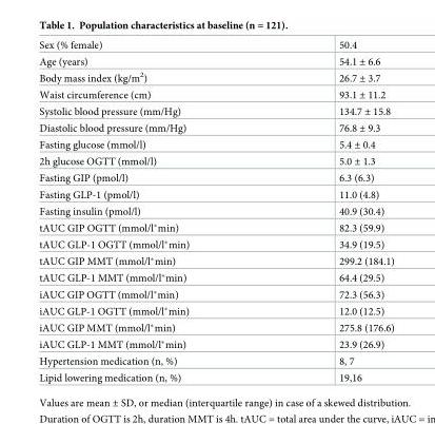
<table><tbody><tr><td>Sex (% female)</td><td>50.4</td></tr><tr><td>Age (years)</td><td>54.1 ± 6.6</td></tr><tr><td>Body mass index (kg/m<sup>2</sup>)</td><td>26.7 ± 3.7</td></tr><tr><td>Waist circumference (cm)</td><td>93.1 ± 11.2</td></tr><tr><td>Systolic blood pressure (mm/Hg)</td><td>134.7 ± 15.8</td></tr><tr><td>Diastolic blood pressure (mm/Hg)</td><td>76.8 ± 9.3</td></tr><tr><td>Fasting glucose (mmol/l)</td><td>5.4 ± 0.4</td></tr><tr><td>2h glucose OGTT (mmol/l)</td><td>5.0 ± 1.3</td></tr><tr><td>Fasting GIP (pmol/l)</td><td>6.3 (6.3)</td></tr><tr><td>Fasting GLP-1 (pmol/l)</td><td>11.0 (4.8)</td></tr><tr><td>Fasting insulin (pmol/l)</td><td>40.9 (30.4)</td></tr><tr><td>tAUC GIP OGTT (mmol/l*min)</td><td>82.3 (59.9)</td></tr><tr><td>tAUC GLP-1 OGTT (mmol/l*min)</td><td>34.9 (19.5)</td></tr><tr><td>tAUC GIP MMT (mmol/l*min)</td><td>299.2 (184.1)</td></tr><tr><td>tAUC GLP-1 MMT (mmol/l*min)</td><td>64.4 (29.5)</td></tr><tr><td>iAUC GIP OGTT (mmol/l*min)</td><td>72.3 (56.3)</td></tr><tr><td>iAUC GLP-1 OGTT (mmol/l*min)</td><td>12.0 (12.5)</td></tr><tr><td>iAUC GIP MMT (mmol/l*min)</td><td>275.8 (176.6)</td></tr><tr><td>iAUC GLP-1 MMT (mmol/l*min)</td><td>23.9 (26.9)</td></tr><tr><td>Hypertension medication (n, %)</td><td>8, 7</td></tr><tr><td>Lipid lowering medication (n, %)</td><td>19,16</td></tr></tbody></table>